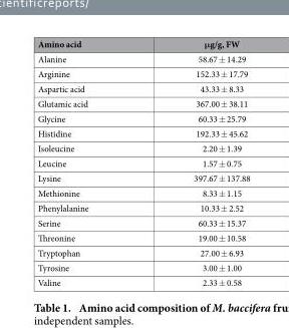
<table><thead><tr><td>Amino acid</td><td>μg/g, FW</td></tr></thead><tbody><tr><td>Alanine</td><td>58.67 ± 14.29</td></tr><tr><td>Arginine</td><td>152.33 ± 17.79</td></tr><tr><td>Aspartic acid</td><td>43.33 ± 8.33</td></tr><tr><td>Glutamic acid</td><td>367.00 ± 38.11</td></tr><tr><td>Glycine</td><td>60.33 ± 25.79</td></tr><tr><td>Histidine</td><td>192.33 ± 45.62</td></tr><tr><td>Isoleucine</td><td>2.20 ± 1.39</td></tr><tr><td>Leucine</td><td>1.57 ± 0.75</td></tr><tr><td>Lysine</td><td>397.67 ± 137.88</td></tr><tr><td>Methionine</td><td>8.33 ± 1.15</td></tr><tr><td>Phenylalanine</td><td>10.33 ± 2.52</td></tr><tr><td>Serine</td><td>60.33 ± 15.37</td></tr><tr><td>Threonine</td><td>19.00 ± 10.58</td></tr><tr><td>Tryptophan</td><td>27.00 ± 6.93</td></tr><tr><td>Tyrosine</td><td>3.00 ± 1.00</td></tr><tr><td>Valine</td><td>2.33 ± 0.58</td></tr></tbody></table>